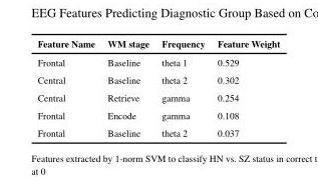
<table><thead><tr><td>Feature Name</td><td>WM stage</td><td>Frequency</td><td>Feature Weight</td></tr></thead><tbody><tr><td>Frontal</td><td>Baseline</td><td>theta 1</td><td>0.529</td></tr><tr><td>Central</td><td>Baseline</td><td>theta 2</td><td>0.302</td></tr><tr><td>Central</td><td>Retrieve</td><td>gamma</td><td>0.254</td></tr><tr><td>Frontal</td><td>Encode</td><td>gamma</td><td>0.108</td></tr><tr><td>Frontal</td><td>Baseline</td><td>theta 2</td><td>0.037</td></tr></tbody></table>